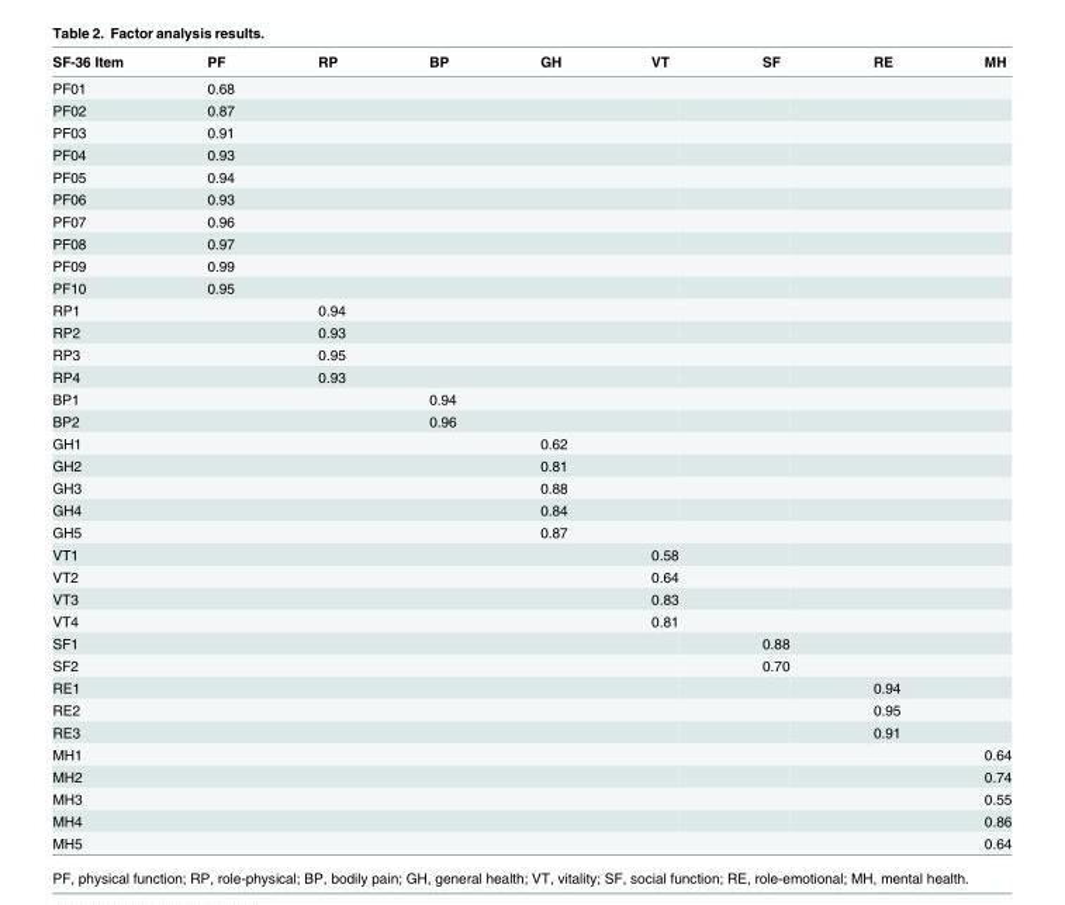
<table><thead><tr><td>SF-36 Item</td><td>PF</td><td>RP</td><td>BP</td><td>GH</td><td>VT</td><td>SF</td><td>RE</td><td>MH</td></tr></thead><tbody><tr><td>PF01</td><td>0.68</td><td></td><td></td><td></td><td></td><td></td><td></td><td></td></tr><tr><td>PF02</td><td>0.87</td><td></td><td></td><td></td><td></td><td></td><td></td><td></td></tr><tr><td>PF03</td><td>0.91</td><td></td><td></td><td></td><td></td><td></td><td></td><td></td></tr><tr><td>PF04</td><td>0.93</td><td></td><td></td><td></td><td></td><td></td><td></td><td></td></tr><tr><td>PF05</td><td>0.94</td><td></td><td></td><td></td><td></td><td></td><td></td><td></td></tr><tr><td>PF06</td><td>0.93</td><td></td><td></td><td></td><td></td><td></td><td></td><td></td></tr><tr><td>PF07</td><td>0.96</td><td></td><td></td><td></td><td></td><td></td><td></td><td></td></tr><tr><td>PF08</td><td>0.97</td><td></td><td></td><td></td><td></td><td></td><td></td><td></td></tr><tr><td>PF09</td><td>0.99</td><td></td><td></td><td></td><td></td><td></td><td></td><td></td></tr><tr><td>PF10</td><td>0.95</td><td></td><td></td><td></td><td></td><td></td><td></td><td></td></tr><tr><td>RP1</td><td></td><td>0.94</td><td></td><td></td><td></td><td></td><td></td><td></td></tr><tr><td>RP2</td><td></td><td>0.93</td><td></td><td></td><td></td><td></td><td></td><td></td></tr><tr><td>RP3</td><td></td><td>0.95</td><td></td><td></td><td></td><td></td><td></td><td></td></tr><tr><td>RP4</td><td></td><td>0.93</td><td></td><td></td><td></td><td></td><td></td><td></td></tr><tr><td>BP1</td><td></td><td></td><td>0.94</td><td></td><td></td><td></td><td></td><td></td></tr><tr><td>BP2</td><td></td><td></td><td>0.96</td><td></td><td></td><td></td><td></td><td></td></tr><tr><td>GH1</td><td></td><td></td><td></td><td>0.62</td><td></td><td></td><td></td><td></td></tr><tr><td>GH2</td><td></td><td></td><td></td><td>0.81</td><td></td><td></td><td></td><td></td></tr><tr><td>GH3</td><td></td><td></td><td></td><td>0.88</td><td></td><td></td><td></td><td></td></tr><tr><td>GH4</td><td></td><td></td><td></td><td>0.84</td><td></td><td></td><td></td><td></td></tr><tr><td>GH5</td><td></td><td></td><td></td><td>0.87</td><td></td><td></td><td></td><td></td></tr><tr><td>VT1</td><td></td><td></td><td></td><td></td><td>0.58</td><td></td><td></td><td></td></tr><tr><td>VT2</td><td></td><td></td><td></td><td></td><td>0.64</td><td></td><td></td><td></td></tr><tr><td>VT3</td><td></td><td></td><td></td><td></td><td>0.83</td><td></td><td></td><td></td></tr><tr><td>VT4</td><td></td><td></td><td></td><td></td><td>0.81</td><td></td><td></td><td></td></tr><tr><td>SF1</td><td></td><td></td><td></td><td></td><td></td><td>0.88</td><td></td><td></td></tr><tr><td>SF2</td><td></td><td></td><td></td><td></td><td></td><td>0.70</td><td></td><td></td></tr><tr><td>RE1</td><td></td><td></td><td></td><td></td><td></td><td></td><td>0.94</td><td></td></tr><tr><td>RE2</td><td></td><td></td><td></td><td></td><td></td><td></td><td>0.95</td><td></td></tr><tr><td>RE3</td><td></td><td></td><td></td><td></td><td></td><td></td><td>0.91</td><td></td></tr><tr><td>MH1</td><td></td><td></td><td></td><td></td><td></td><td></td><td></td><td>0.64</td></tr><tr><td>MH2</td><td></td><td></td><td></td><td></td><td></td><td></td><td></td><td>0.74</td></tr><tr><td>MH3</td><td></td><td></td><td></td><td></td><td></td><td></td><td></td><td>0.55</td></tr><tr><td>MH4</td><td></td><td></td><td></td><td></td><td></td><td></td><td></td><td>0.86</td></tr><tr><td>MH5</td><td></td><td></td><td></td><td></td><td></td><td></td><td></td><td>0.64</td></tr></tbody></table>